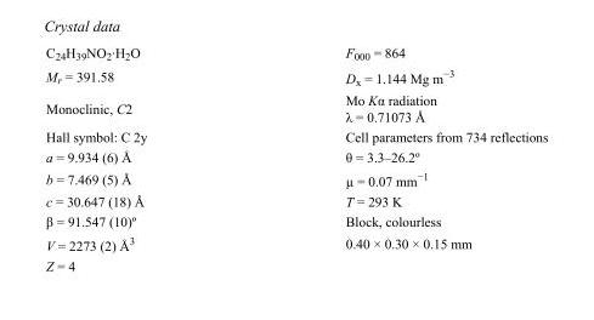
<table><tbody><tr><td>C<sub>24</sub>H<sub>39</sub>NO<sub>2</sub>·H<sub>2</sub>O</td><td>F000 = 864</td></tr><tr><td>M<sub>r</sub> = 391.58</td><td>D<sub>x</sub> = 1.144 Mg m<sup>−3</sup></td></tr><tr><td>Monoclinic, C2</td><td>Mo Kα radiation λ = 0.71073 Å</td></tr><tr><td>Hall symbol: C 2y</td><td>Cell parameters from 734 reflections</td></tr><tr><td>a = 9.934 (6) Å</td><td>θ = 3.3–26.2º</td></tr><tr><td>b = 7.469 (5) Å</td><td>µ = 0.07 mm<sup>−1</sup></td></tr><tr><td>c = 30.647 (18) Å</td><td>T = 293 K</td></tr><tr><td>β = 91.547 (10)º</td><td>Block, colourless</td></tr><tr><td>V = 2273 (2) Å<sup>3</sup></td><td>0.40 × 0.30 × 0.15 mm</td></tr><tr><td>Z = 4</td><td></td></tr></tbody></table>